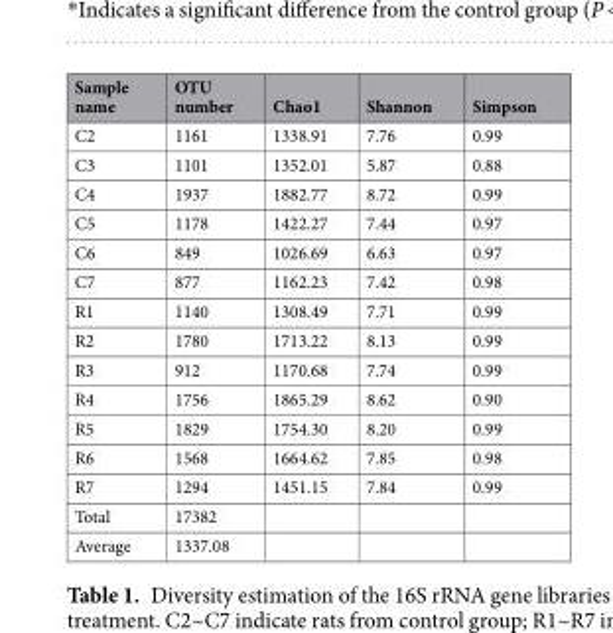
<table><thead><tr><td>Sample name</td><td>OTU number</td><td>Chao1</td><td>Shannon</td><td>Simpson</td></tr></thead><tbody><tr><td>C2</td><td>1161</td><td>1338.91</td><td>7.76</td><td>0.99</td></tr><tr><td>C3</td><td>1101</td><td>1352.01</td><td>5.87</td><td>0.88</td></tr><tr><td>C4</td><td>1937</td><td>1882.77</td><td>8.72</td><td>0.99</td></tr><tr><td>C5</td><td>1178</td><td>1422.27</td><td>7.44</td><td>0.97</td></tr><tr><td>C6</td><td>849</td><td>1026.69</td><td>6.63</td><td>0.97</td></tr><tr><td>C7</td><td>877</td><td>1162.23</td><td>7.42</td><td>0.98</td></tr><tr><td>R1</td><td>1140</td><td>1308.49</td><td>7.71</td><td>0.99</td></tr><tr><td>R2</td><td>1780</td><td>1713.22</td><td>8.13</td><td>0.99</td></tr><tr><td>R3</td><td>912</td><td>1170.68</td><td>7.74</td><td>0.99</td></tr><tr><td>R4</td><td>1756</td><td>1865.29</td><td>8.62</td><td>0.90</td></tr><tr><td>R5</td><td>1829</td><td>1754.30</td><td>8.20</td><td>0.99</td></tr><tr><td>R6</td><td>1568</td><td>1664.62</td><td>7.85</td><td>0.98</td></tr><tr><td>R7</td><td>1294</td><td>1451.15</td><td>7.84</td><td>0.99</td></tr><tr><td>Total</td><td>17382</td><td></td><td></td><td></td></tr><tr><td>Average</td><td>1337.08</td><td></td><td></td><td></td></tr></tbody></table>